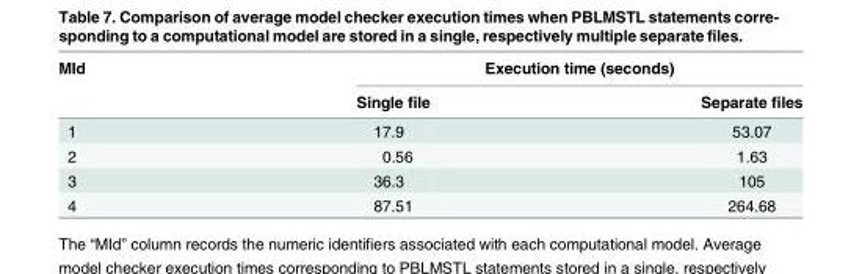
<table><thead><tr><td rowspan="2">MId</td><td colspan="2">Execution time (seconds)</td></tr><tr><td>Single file</td><td>Separate files</td></tr></thead><tbody><tr><td>1</td><td>17.9</td><td>53.07</td></tr><tr><td>2</td><td>0.56</td><td>1.63</td></tr><tr><td>3</td><td>36.3</td><td>105</td></tr><tr><td>4</td><td>87.51</td><td>264.68</td></tr></tbody></table>